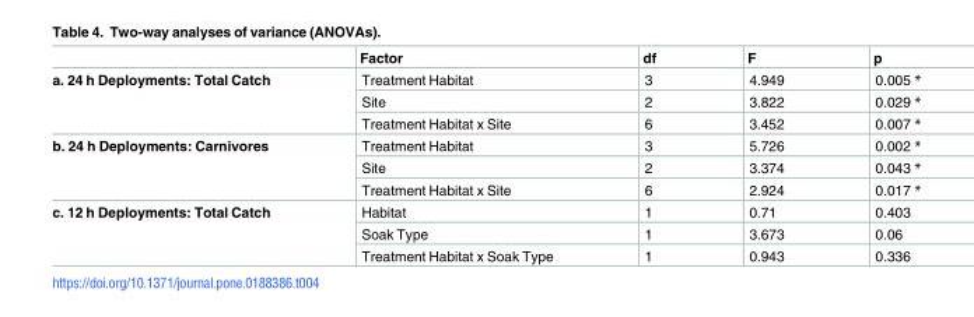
<table><thead><tr><td></td><td>Factor</td><td>df</td><td>F</td><td>p</td></tr></thead><tbody><tr><td rowspan="3">a. 24 h Deployments: Total Catch</td><td>Treatment Habitat</td><td>3</td><td>4.949</td><td>0.005 *</td></tr><tr><td>Site</td><td>2</td><td>3.822</td><td>0.029 *</td></tr><tr><td>Treatment Habitat x Site</td><td>6</td><td>3.452</td><td>0.007 *</td></tr><tr><td rowspan="3">b. 24 h Deployments: Carnivores</td><td>Treatment Habitat</td><td>3</td><td>5.726</td><td>0.002 *</td></tr><tr><td>Site</td><td>2</td><td>3.374</td><td>0.043 *</td></tr><tr><td>Treatment Habitat x Site</td><td>6</td><td>2.924</td><td>0.017 *</td></tr><tr><td rowspan="3">c. 12 h Deployments: Total Catch</td><td>Habitat</td><td>1</td><td>0.71</td><td>0.403</td></tr><tr><td>Soak Type</td><td>1</td><td>3.673</td><td>0.06</td></tr><tr><td>Treatment Habitat x Soak Type</td><td>1</td><td>0.943</td><td>0.336</td></tr></tbody></table>